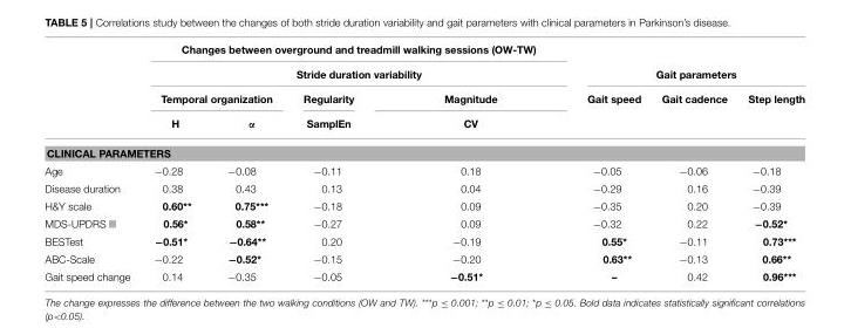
<table><thead><tr><td rowspan="4"></td><td rowspan="2" colspan="4">Changes between overground and treadmill walking sessions (OW-TW) Stride duration variability</td><td></td><td></td><td></td></tr><tr><td colspan="3">Gait parameters</td></tr><tr><td colspan="2">Temporal organization</td><td rowspan="2">Regularity SamplEn</td><td rowspan="2">Magnitude CV</td><td rowspan="2">Gait speed</td><td rowspan="2">Gait cadence</td><td rowspan="2">Step length</td></tr><tr><td>H</td><td>α</td></tr></thead><tbody><tr><td colspan="8">CLINICAL PARAMETERS</td></tr><tr><td>Age</td><td>−0.28</td><td>−0.08</td><td>−0.11</td><td>0.18</td><td>−0.05</td><td>−0.06</td><td>−0.18</td></tr><tr><td>Disease duration</td><td>0.38</td><td>0.43</td><td>0.13</td><td>0.04</td><td>−0.29</td><td>0.16</td><td>−0.39</td></tr><tr><td>H&amp;Y scale</td><td>0.60**</td><td>0.75***</td><td>−0.18</td><td>0.09</td><td>−0.35</td><td>0.20</td><td>−0.39</td></tr><tr><td>MDS-UPDRS III</td><td>0.56*</td><td>0.58**</td><td>−0.27</td><td>0.09</td><td>−0.32</td><td>0.22</td><td>−0.52*</td></tr><tr><td>BESTest</td><td>−0.51*</td><td>−0.64**</td><td>0.20</td><td>−0.19</td><td>0.55*</td><td>−0.11</td><td>0.73***</td></tr><tr><td>ABC-Scale</td><td>−0.22</td><td>−0.52*</td><td>−0.15</td><td>−0.20</td><td>0.63**</td><td>−0.13</td><td>0.66**</td></tr><tr><td>Gait speed change</td><td>0.14</td><td>−0.35</td><td>−0.05</td><td>−0.51*</td><td>–</td><td>0.42</td><td>0.96***</td></tr></tbody></table>